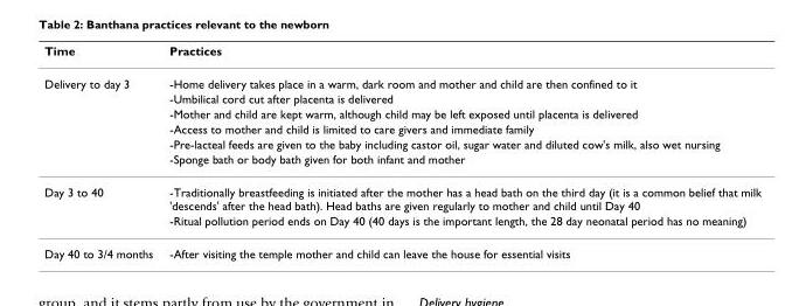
<table><thead><tr><td>Time</td><td>Practices</td></tr></thead><tbody><tr><td rowspan="6">Delivery to day 3</td><td>-Home delivery takes place in a warm, dark room and mother and child are then confined to it</td></tr><tr><td>-Umbilical cord cut after placenta is delivered</td></tr><tr><td>-Mother and child are kept warm, although child may be left exposed until placenta is delivered</td></tr><tr><td>-Access to mother and child is limited to care givers and immediate family</td></tr><tr><td>-Pre-lacteal feeds are given to the baby including castor oil, sugar water and diluted cow&#x27;s milk, also wet nursing</td></tr><tr><td>-Sponge bath or body bath given for both infant and mother</td></tr><tr><td rowspan="2">Day 3 to 40</td><td>-Traditionally breastfeeding is initiated after the mother has a head bath on the third day (it is a common belief that milk &#x27;descends&#x27; after the head bath). Head baths are given regularly to mother and child until Day 40</td></tr><tr><td>-Ritual pollution period ends on Day 40 (40 days is the important length, the 28 day neonatal period has no meaning)</td></tr><tr><td>Day 40 to 3/4 months</td><td>-After visiting the temple mother and child can leave the house for essential visits</td></tr></tbody></table>